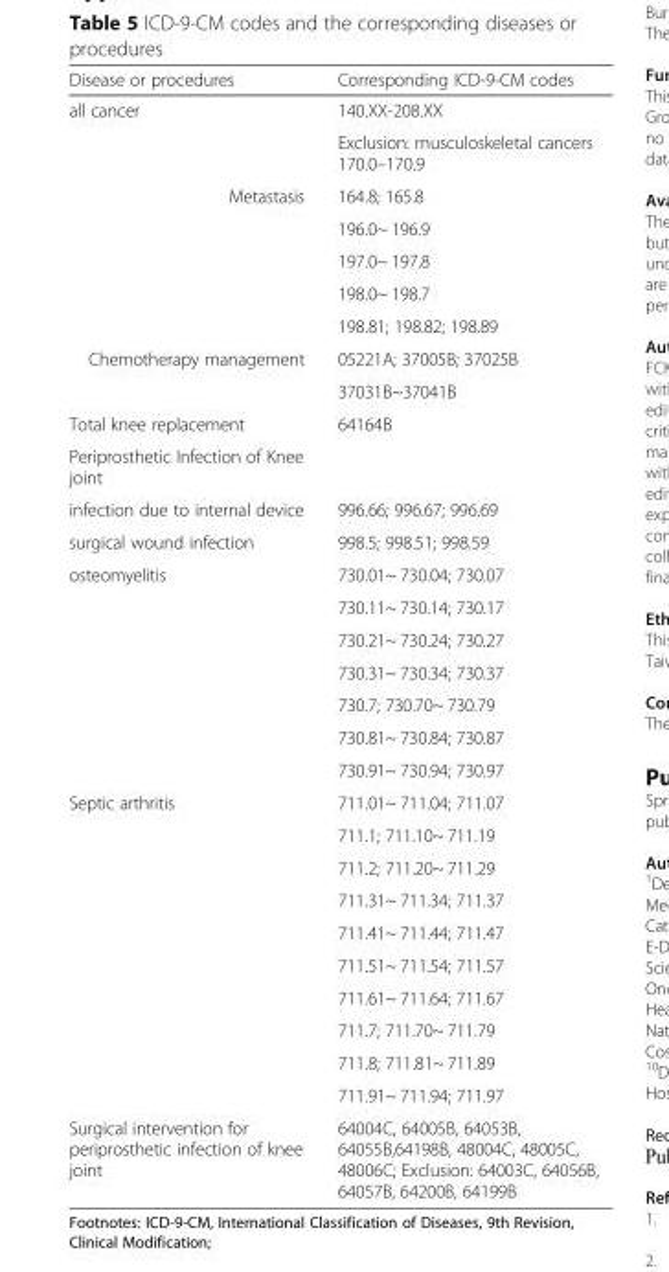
<table><thead><tr><td>Disease or procedures</td><td>Corresponding ICD-9-CM codes</td></tr></thead><tbody><tr><td rowspan="2">all cancer</td><td>140.XX-208.XX</td></tr><tr><td>Exclusion: musculoskeletal cancers 170.0–170.9</td></tr><tr><td rowspan="5">Metastasis</td><td>164.8; 165.8</td></tr><tr><td>196.0~ 196.9</td></tr><tr><td>197.0~ 197.8</td></tr><tr><td>198.0~ 198.7</td></tr><tr><td>198.81; 198.82; 198.89</td></tr><tr><td rowspan="2">Chemotherapy management</td><td>05221A; 37005B; 37025B</td></tr><tr><td>37031B~37041B</td></tr><tr><td>Total knee replacement</td><td>64164B</td></tr><tr><td colspan="2">Periprosthetic Infection of Knee joint</td></tr><tr><td>infection due to internal device</td><td>996.66; 996.67; 996.69</td></tr><tr><td>surgical wound infection</td><td>998.5; 998.51; 998.59</td></tr><tr><td rowspan="7">osteomyelitis</td><td>730.01~ 730.04; 730.07</td></tr><tr><td>730.11~ 730.14; 730.17</td></tr><tr><td>730.21~ 730.24; 730.27</td></tr><tr><td>730.31~ 730.34; 730.37</td></tr><tr><td>730.7; 730.70~ 730.79</td></tr><tr><td>730.81~ 730.84; 730.87</td></tr><tr><td>730.91~ 730.94; 730.97</td></tr><tr><td rowspan="10">Septic arthritis</td><td>711.01~ 711.04; 711.07</td></tr><tr><td>711.1; 711.10~ 711.19</td></tr><tr><td>711.2; 711.20~ 711.29</td></tr><tr><td>711.31~ 711.34; 711.37</td></tr><tr><td>711.41~ 711.44; 711.47</td></tr><tr><td>711.51~ 711.54; 711.57</td></tr><tr><td>711.61~ 711.64; 711.67</td></tr><tr><td>711.7; 711.70~ 711.79</td></tr><tr><td>711.8; 711.81~ 711.89</td></tr><tr><td>711.91~ 711.94; 711.97</td></tr><tr><td>Surgical intervention for periprosthetic infection of knee joint</td><td>64004C, 64005B, 64053B, 64055B,64198B, 48004C, 48005C, 48006C; Exclusion: 64003C, 64056B, 64057B, 64200B, 64199B</td></tr></tbody></table>